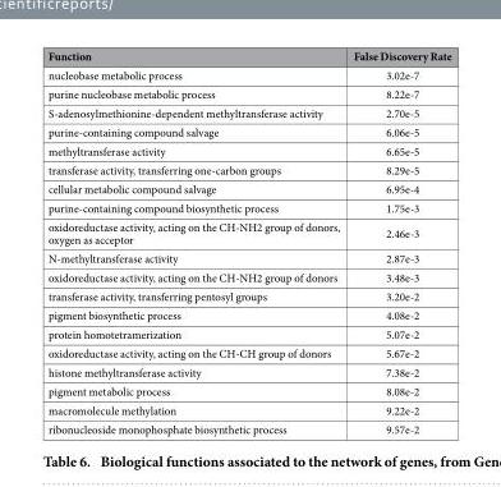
<table><thead><tr><td>Function</td><td>False Discovery Rate</td></tr></thead><tbody><tr><td>nucleobase metabolic process</td><td>3.02e-7</td></tr><tr><td>purine nucleobase metabolic process</td><td>8.22e-7</td></tr><tr><td>S-adenosylmethionine-dependent methyltransferase activity</td><td>2.70e-5</td></tr><tr><td>purine-containing compound salvage</td><td>6.06e-5</td></tr><tr><td>methyltransferase activity</td><td>6.65e-5</td></tr><tr><td>transferase activity, transferring one-carbon groups</td><td>8.29e-5</td></tr><tr><td>cellular metabolic compound salvage</td><td>6.95e-4</td></tr><tr><td>purine-containing compound biosynthetic process</td><td>1.75e-3</td></tr><tr><td>oxidoreductase activity, acting on the CH-NH2 group of donors, oxygen as acceptor</td><td>2.46e-3</td></tr><tr><td>N-methyltransferase activity</td><td>2.87e-3</td></tr><tr><td>oxidoreductase activity, acting on the CH-NH2 group of donors</td><td>3.48e-3</td></tr><tr><td>transferase activity, transferring pentosyl groups</td><td>3.20e-2</td></tr><tr><td>pigment biosynthetic process</td><td>4.08e-2</td></tr><tr><td>protein homotetramerization</td><td>5.07e-2</td></tr><tr><td>oxidoreductase activity, acting on the CH-CH group of donors</td><td>5.67e-2</td></tr><tr><td>histone methyltransferase activity</td><td>7.38e-2</td></tr><tr><td>pigment metabolic process</td><td>8.08e-2</td></tr><tr><td>macromolecule methylation</td><td>9.22e-2</td></tr><tr><td>ribonucleoside monophosphate biosynthetic process</td><td>9.57e-2</td></tr></tbody></table>